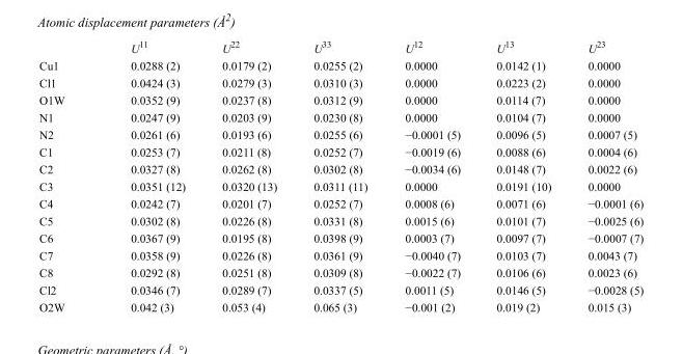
<table><thead><tr><td></td><td>U<sup>11</sup></td><td>U<sup>22</sup></td><td>U<sup>33</sup></td><td>U<sup>12</sup></td><td>U<sup>13</sup></td><td>U<sup>23</sup></td></tr></thead><tbody><tr><td>Cu1</td><td>0.0288 (2)</td><td>0.0179 (2)</td><td>0.0255 (2)</td><td>0.0000</td><td>0.0142 (1)</td><td>0.0000</td></tr><tr><td>Cl1</td><td>0.0424 (3)</td><td>0.0279 (3)</td><td>0.0310 (3)</td><td>0.0000</td><td>0.0223 (2)</td><td>0.0000</td></tr><tr><td>O1W</td><td>0.0352 (9)</td><td>0.0237 (8)</td><td>0.0312 (9)</td><td>0.0000</td><td>0.0114 (7)</td><td>0.0000</td></tr><tr><td>N1</td><td>0.0247 (9)</td><td>0.0203 (9)</td><td>0.0230 (8)</td><td>0.0000</td><td>0.0104 (7)</td><td>0.0000</td></tr><tr><td>N2</td><td>0.0261 (6)</td><td>0.0193 (6)</td><td>0.0255 (6)</td><td>−0.0001 (5)</td><td>0.0096 (5)</td><td>0.0007 (5)</td></tr><tr><td>C1</td><td>0.0253 (7)</td><td>0.0211 (8)</td><td>0.0252 (7)</td><td>−0.0019 (6)</td><td>0.0088 (6)</td><td>0.0004 (6)</td></tr><tr><td>C2</td><td>0.0327 (8)</td><td>0.0262 (8)</td><td>0.0302 (8)</td><td>−0.0034 (6)</td><td>0.0148 (7)</td><td>0.0022 (6)</td></tr><tr><td>C3</td><td>0.0351 (12)</td><td>0.0320 (13)</td><td>0.0311 (11)</td><td>0.0000</td><td>0.0191 (10)</td><td>0.0000</td></tr><tr><td>C4</td><td>0.0242 (7)</td><td>0.0201 (7)</td><td>0.0252 (7)</td><td>0.0008 (6)</td><td>0.0071 (6)</td><td>−0.0001 (6)</td></tr><tr><td>C5</td><td>0.0302 (8)</td><td>0.0226 (8)</td><td>0.0331 (8)</td><td>0.0015 (6)</td><td>0.0101 (7)</td><td>−0.0025 (6)</td></tr><tr><td>C6</td><td>0.0367 (9)</td><td>0.0195 (8)</td><td>0.0398 (9)</td><td>0.0003 (7)</td><td>0.0097 (7)</td><td>−0.0007 (7)</td></tr><tr><td>C7</td><td>0.0358 (9)</td><td>0.0226 (8)</td><td>0.0361 (9)</td><td>−0.0040 (7)</td><td>0.0103 (7)</td><td>0.0043 (7)</td></tr><tr><td>C8</td><td>0.0292 (8)</td><td>0.0251 (8)</td><td>0.0309 (8)</td><td>−0.0022 (7)</td><td>0.0106 (6)</td><td>0.0023 (6)</td></tr><tr><td>Cl2</td><td>0.0346 (7)</td><td>0.0289 (7)</td><td>0.0337 (5)</td><td>0.0011 (5)</td><td>0.0146 (5)</td><td>−0.0028 (5)</td></tr><tr><td>O2W</td><td>0.042 (3)</td><td>0.053 (4)</td><td>0.065 (3)</td><td>−0.001 (2)</td><td>0.019 (2)</td><td>0.015 (3)</td></tr></tbody></table>